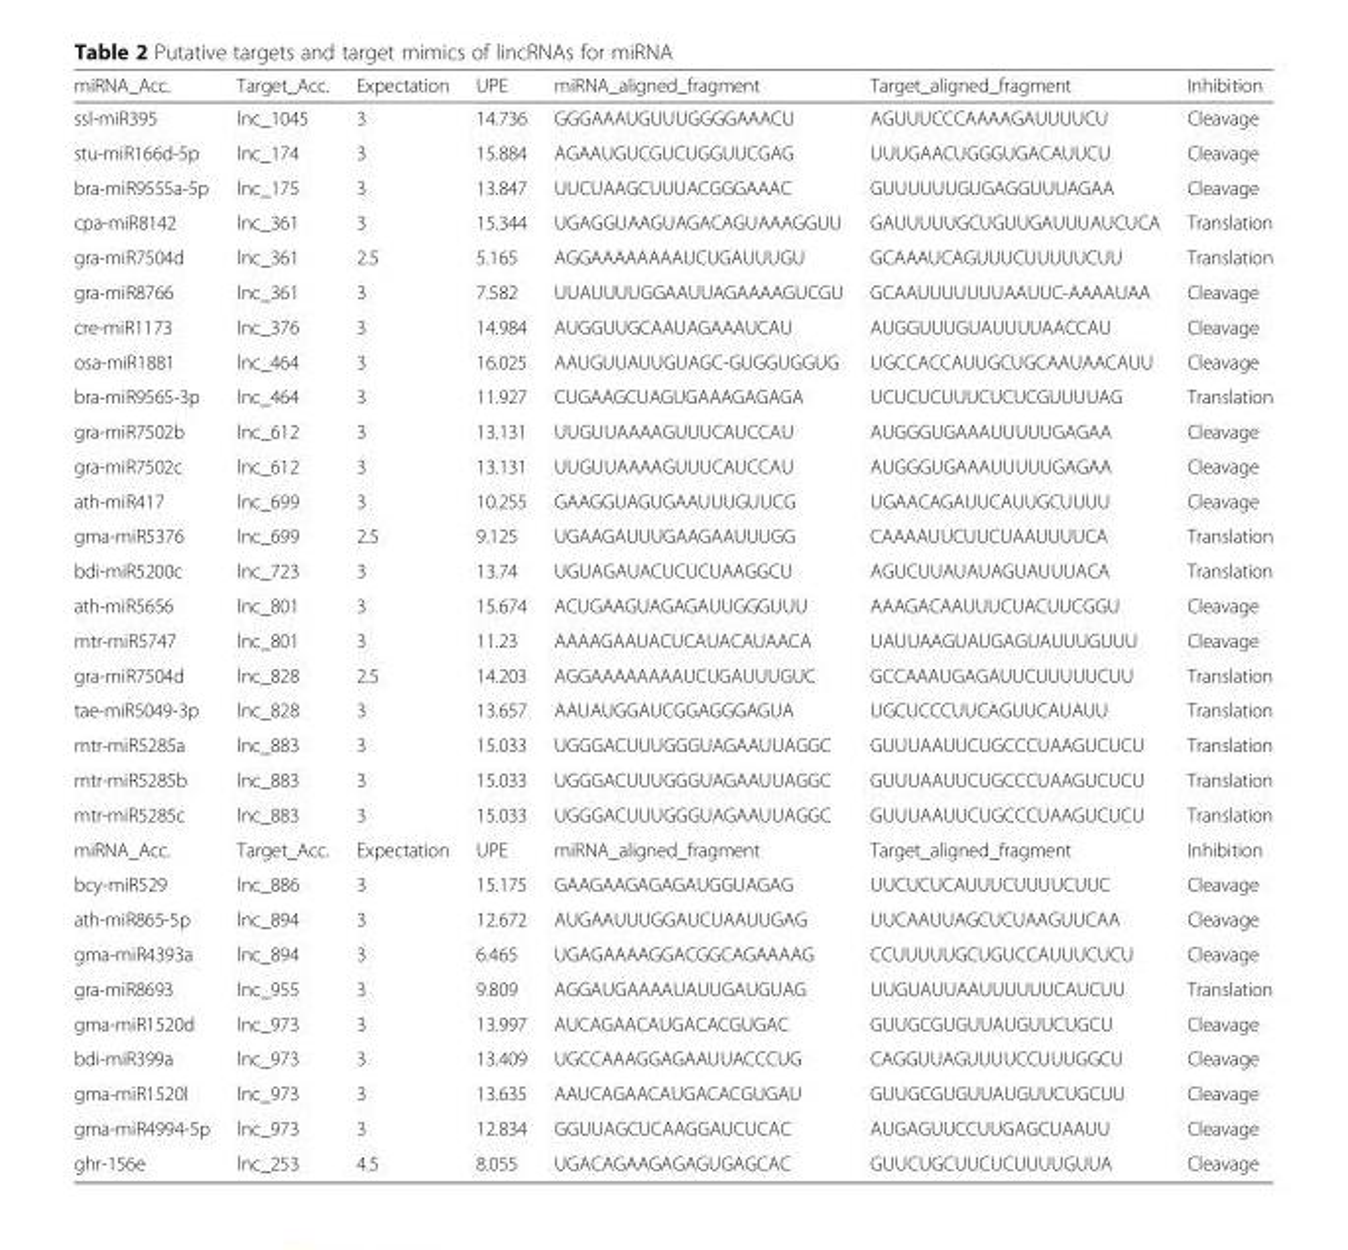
<table><thead><tr><td>miRNA_Acc.</td><td>Target_Acc.</td><td>Expectation</td><td>UPE</td><td>miRNA_aligned_fragment</td><td>Target_aligned_fragment</td><td>Inhibition</td></tr></thead><tbody><tr><td>ssl-miR395</td><td>lnc_1045</td><td>3</td><td>14.736</td><td>GGGAAAUGUUUGGGGAAACU</td><td>AGUUUCCCAAAAGAUUUUCU</td><td>Cleavage</td></tr><tr><td>stu-miR166d-5p</td><td>lnc_174</td><td>3</td><td>15.884</td><td>AGAAUGUCGUCUGGUUCGAG</td><td>UUUGAACUGGGUGACAUUCU</td><td>Cleavage</td></tr><tr><td>bra-miR9555a-5p</td><td>lnc_175</td><td>3</td><td>13.847</td><td>UUCUAAGCUUUACGGGAAAC</td><td>GUUUUUUGUGAGGUUUAGAA</td><td>Cleavage</td></tr><tr><td>cpa-miR8142</td><td>lnc_361</td><td>3</td><td>15.344</td><td>UGAGGUAAGUAGACAGUAAAGGUU</td><td>GAUUUUUGCUGUUGAUUUAUCUCA</td><td>Translation</td></tr><tr><td>gra-miR7504d</td><td>lnc_361</td><td>2.5</td><td>5.165</td><td>AGGAAAAAAAAUCUGAUUUGU</td><td>GCAAAUCAGUUUCUUUUUCUU</td><td>Translation</td></tr><tr><td>gra-miR8766</td><td>lnc_361</td><td>3</td><td>7.582</td><td>UUAUUUUGGAAUUAGAAAAGUCGU</td><td>GCAAUUUUUUUAAUUC-AAAAUAA</td><td>Cleavage</td></tr><tr><td>cre-miR1173</td><td>lnc_376</td><td>3</td><td>14.984</td><td>AUGGUUGCAAUAGAAAUCAU</td><td>AUGGUUUGUAUUUUAACCAU</td><td>Cleavage</td></tr><tr><td>osa-miR1881</td><td>lnc_464</td><td>3</td><td>16.025</td><td>AAUGUUAUUGUAGC-GUGGUGGUG</td><td>UGCCACCAUUGCUGCAAUAACAUU</td><td>Cleavage</td></tr><tr><td>bra-miR9565-3p</td><td>lnc_464</td><td>3</td><td>11.927</td><td>CUGAAGCUAGUGAAAGAGAGA</td><td>UCUCUCUUUCUCUCGUUUUAG</td><td>Translation</td></tr><tr><td>gra-miR7502b</td><td>lnc_612</td><td>3</td><td>13.131</td><td>UUGUUAAAAGUUUCAUCCAU</td><td>AUGGGUGAAAUUUUUGAGAA</td><td>Cleavage</td></tr><tr><td>gra-miR7502c</td><td>lnc_612</td><td>3</td><td>13.131</td><td>UUGUUAAAAGUUUCAUCCAU</td><td>AUGGGUGAAAUUUUUGAGAA</td><td>Cleavage</td></tr><tr><td>ath-miR417</td><td>lnc_699</td><td>3</td><td>10.255</td><td>GAAGGUAGUGAAUUUGUUCG</td><td>UGAACAGAUUCAUUGCUUUU</td><td>Cleavage</td></tr><tr><td>gma-miR5376</td><td>lnc_699</td><td>2.5</td><td>9.125</td><td>UGAAGAUUUGAAGAAUUUGG</td><td>CAAAAUUCUUCUAAUUUUCA</td><td>Translation</td></tr><tr><td>bdi-miR5200c</td><td>lnc_723</td><td>3</td><td>13.74</td><td>UGUAGAUACUCUCUAAGGCU</td><td>AGUCUUAUAUAGUAUUUACA</td><td>Translation</td></tr><tr><td>ath-miR5656</td><td>lnc_801</td><td>3</td><td>15.674</td><td>ACUGAAGUAGAGAUUGGGUUU</td><td>AAAGACAAUUUCUACUUCGGU</td><td>Cleavage</td></tr><tr><td>mtr-miR5747</td><td>lnc_801</td><td>3</td><td>11.23</td><td>AAAAGAAUACUCAUACAUAACA</td><td>UAUUAAGUAUGAGUAUUUGUUU</td><td>Cleavage</td></tr><tr><td>gra-miR7504d</td><td>lnc_828</td><td>2.5</td><td>14.203</td><td>AGGAAAAAAAAUCUGAUUUGUC</td><td>GCCAAAUGAGAUUCUUUUUCUU</td><td>Translation</td></tr><tr><td>tae-miR5049-3p</td><td>lnc_828</td><td>3</td><td>13.657</td><td>AAUAUGGAUCGGAGGGAGUA</td><td>UGCUCCCUUCAGUUCAUAUU</td><td>Translation</td></tr><tr><td>mtr-miR5285a</td><td>lnc_883</td><td>3</td><td>15.033</td><td>UGGGACUUUGGGUAGAAUUAGGC</td><td>GUUUAAUUCUGCCCUAAGUCUCU</td><td>Translation</td></tr><tr><td>mtr-miR5285b</td><td>lnc_883</td><td>3</td><td>15.033</td><td>UGGGACUUUGGGUAGAAUUAGGC</td><td>GUUUAAUUCUGCCCUAAGUCUCU</td><td>Translation</td></tr><tr><td>mtr-miR5285c</td><td>lnc_883</td><td>3</td><td>15.033</td><td>UGGGACUUUGGGUAGAAUUAGGC</td><td>GUUUAAUUCUGCCCUAAGUCUCU</td><td>Translation</td></tr><tr><td>miRNA_Acc.</td><td>Target_Acc.</td><td>Expectation</td><td>UPE</td><td>miRNA_aligned_fragment</td><td>Target_aligned_fragment</td><td>Inhibition</td></tr><tr><td>bcy-miR529</td><td>lnc_886</td><td>3</td><td>15.175</td><td>GAAGAAGAGAGAUGGUAGAG</td><td>UUCUCUCAUUUCUUUUCUUC</td><td>Cleavage</td></tr><tr><td>ath-miR865-5p</td><td>lnc_894</td><td>3</td><td>12.672</td><td>AUGAAUUUGGAUCUAAUUGAG</td><td>UUCAAUUAGCUCUAAGUUCAA</td><td>Cleavage</td></tr><tr><td>gma-miR4393a</td><td>lnc_894</td><td>3</td><td>6.465</td><td>UGAGAAAAGGACGGCAGAAAAG</td><td>CCUUUUUGCUGUCCAUUUCUCU</td><td>Cleavage</td></tr><tr><td>gra-miR8693</td><td>lnc_955</td><td>3</td><td>9.809</td><td>AGGAUGAAAAUAUUGAUGUAG</td><td>UUGUAUUAAUUUUUUCAUCUU</td><td>Translation</td></tr><tr><td>gma-miR1520d</td><td>lnc_973</td><td>3</td><td>13.997</td><td>AUCAGAACAUGACACGUGAC</td><td>GUUGCGUGUUAUGUUCUGCU</td><td>Cleavage</td></tr><tr><td>bdi-miR399a</td><td>lnc_973</td><td>3</td><td>13.409</td><td>UGCCAAAGGAGAAUUACCCUG</td><td>CAGGUUAGUUUUCCUUUGGCU</td><td>Cleavage</td></tr><tr><td>gma-miR1520l</td><td>lnc_973</td><td>3</td><td>13.635</td><td>AAUCAGAACAUGACACGUGAU</td><td>GUUGCGUGUUAUGUUCUGCUU</td><td>Cleavage</td></tr><tr><td>gma-miR4994-5p</td><td>lnc_973</td><td>3</td><td>12.834</td><td>GGUUAGCUCAAGGAUCUCAC</td><td>AUGAGUUCCUUGAGCUAAUU</td><td>Cleavage</td></tr><tr><td>ghr-156e</td><td>lnc_253</td><td>4.5</td><td>8.055</td><td>UGACAGAAGAGAGUGAGCAC</td><td>GUUCUGCUUCUCUUUUGUUA</td><td>Cleavage</td></tr></tbody></table>